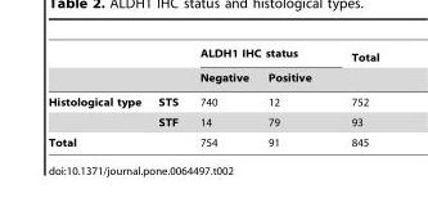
<table><thead><tr><td rowspan="2"></td><td rowspan="2"></td><td colspan="2">ALDH1 IHC status</td><td rowspan="2">Total</td></tr><tr><td>Negative</td><td>Positive</td></tr></thead><tbody><tr><td rowspan="2">Histological type</td><td>STS</td><td>740</td><td>12</td><td>752</td></tr><tr><td>STF</td><td>14</td><td>79</td><td>93</td></tr><tr><td colspan="2">Total</td><td>754</td><td>91</td><td>845</td></tr></tbody></table>